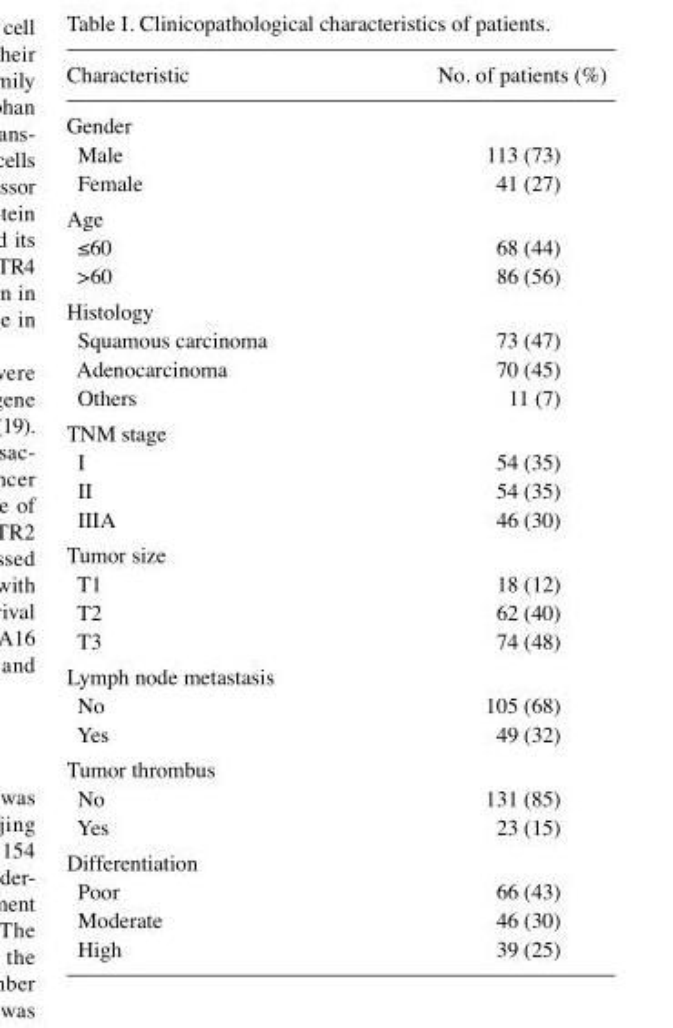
<table><thead><tr><td>Characteristic</td><td>No. of patients (%)</td></tr></thead><tbody><tr><td colspan="2">Gender</td></tr><tr><td>Male</td><td>113 (73)</td></tr><tr><td>Female</td><td>41 (27)</td></tr><tr><td colspan="2">Age</td></tr><tr><td>≤60</td><td>68 (44)</td></tr><tr><td>&gt;60</td><td>86 (56)</td></tr><tr><td colspan="2">Histology</td></tr><tr><td>Squamous carcinoma</td><td>73 (47)</td></tr><tr><td>Adenocarcinoma</td><td>70 (45)</td></tr><tr><td>Others</td><td>11 (7)</td></tr><tr><td colspan="2">TNM stage</td></tr><tr><td>I</td><td>54 (35)</td></tr><tr><td>II</td><td>54 (35)</td></tr><tr><td>IIIA</td><td>46 (30)</td></tr><tr><td colspan="2">Tumor size</td></tr><tr><td>T1</td><td>18 (12)</td></tr><tr><td>T2</td><td>62 (40)</td></tr><tr><td>T3</td><td>74 (48)</td></tr><tr><td colspan="2">Lymph node metastasis</td></tr><tr><td>No</td><td>105 (68)</td></tr><tr><td>Yes</td><td>49 (32)</td></tr><tr><td colspan="2">Tumor thrombus</td></tr><tr><td>No</td><td>131 (85)</td></tr><tr><td>Yes</td><td>23 (15)</td></tr><tr><td colspan="2">Differentiation</td></tr><tr><td>Poor</td><td>66 (43)</td></tr><tr><td>Moderate</td><td>46 (30)</td></tr><tr><td>High</td><td>39 (25)</td></tr></tbody></table>